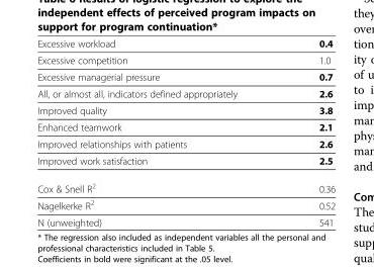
<table><tbody><tr><td>Excessive workload</td><td>0.4</td></tr><tr><td>Excessive competition</td><td>1.0</td></tr><tr><td>Excessive managerial pressure</td><td>0.7</td></tr><tr><td>All, or almost all, indicators defined appropriately</td><td>2.6</td></tr><tr><td>Improved quality</td><td>3.8</td></tr><tr><td>Enhanced teamwork</td><td>2.1</td></tr><tr><td>Improved relationships with patients</td><td>2.6</td></tr><tr><td>Improved work satisfaction</td><td>2.5</td></tr><tr><td>Cox &amp; Snell R<sup>2</sup></td><td>0.36</td></tr><tr><td>Nagelkerke R<sup>2</sup></td><td>0.52</td></tr><tr><td>N (unweighted)</td><td>541</td></tr></tbody></table>